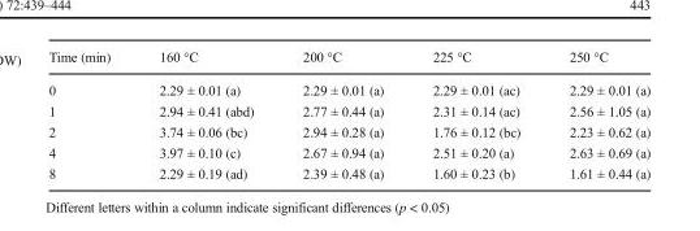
<table><thead><tr><td>Time (min)</td><td>160 °C</td><td>200 °C</td><td>225 °C</td><td>250 °C</td></tr></thead><tbody><tr><td>0</td><td>2.29 ± 0.01 (a)</td><td>2.29 ± 0.01 (a)</td><td>2.29 ± 0.01 (ac)</td><td>2.29 ± 0.01 (a)</td></tr><tr><td>1</td><td>2.94 ± 0.41 (abd)</td><td>2.77 ± 0.44 (a)</td><td>2.31 ± 0.14 (ac)</td><td>2.56 ± 1.05 (a)</td></tr><tr><td>2</td><td>3.74 ± 0.06 (bc)</td><td>2.94 ± 0.28 (a)</td><td>1.76 ± 0.12 (bc)</td><td>2.23 ± 0.62 (a)</td></tr><tr><td>4</td><td>3.97 ± 0.10 (c)</td><td>2.67 ± 0.94 (a)</td><td>2.51 ± 0.20 (a)</td><td>2.63 ± 0.69 (a)</td></tr><tr><td>8</td><td>2.29 ± 0.19 (ad)</td><td>2.39 ± 0.48 (a)</td><td>1.60 ± 0.23 (b)</td><td>1.61 ± 0.44 (a)</td></tr></tbody></table>